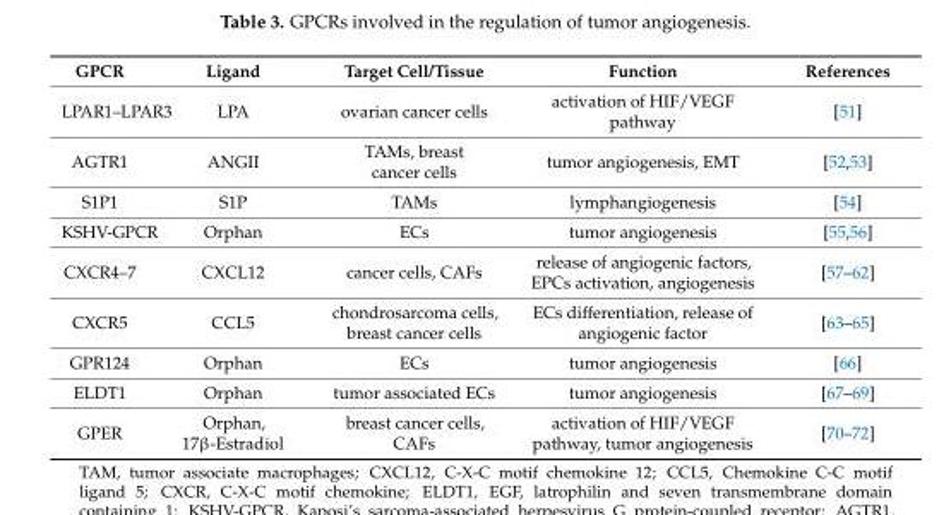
<table><thead><tr><td>GPCR</td><td>Ligand</td><td>Target Cell/Tissue</td><td>Function</td><td>References</td></tr></thead><tbody><tr><td>LPAR1–LPAR3</td><td>LPA</td><td>ovarian cancer cells</td><td>activation of HIF/VEGF pathway</td><td>[51]</td></tr><tr><td>AGTR1</td><td>ANGII</td><td>TAMs, breast cancer cells</td><td>tumor angiogenesis, EMT</td><td>[52,53]</td></tr><tr><td>S1P1</td><td>S1P</td><td>TAMs</td><td>lymphangiogenesis</td><td>[54]</td></tr><tr><td>KSHV-GPCR</td><td>Orphan</td><td>ECs</td><td>tumor angiogenesis</td><td>[55,56]</td></tr><tr><td>CXCR4–7</td><td>CXCL12</td><td>cancer cells, CAFs</td><td>release of angiogenic factors, EPCs activation, angiogenesis</td><td>[57–62]</td></tr><tr><td>CXCR5</td><td>CCL5</td><td>chondrosarcoma cells, breast cancer cells</td><td>ECs differentiation, release of angiogenic factor</td><td>[63–65]</td></tr><tr><td>GPR124</td><td>Orphan</td><td>ECs</td><td>tumor angiogenesis</td><td>[66]</td></tr><tr><td>ELDT1</td><td>Orphan</td><td>tumor associated ECs</td><td>tumor angiogenesis</td><td>[67–69]</td></tr><tr><td>GPER</td><td>Orphan, 17β-Estradiol</td><td>breast cancer cells, CAFs</td><td>activation of HIF/VEGF pathway, tumor angiogenesis</td><td>[70–72]</td></tr></tbody></table>